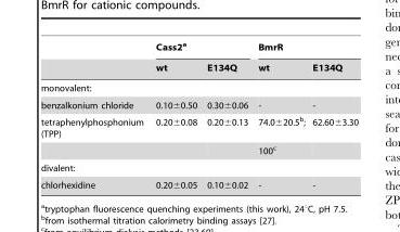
<table><thead><tr><td rowspan="2"></td><td colspan="2">Cass2<sup>a</sup></td><td colspan="2">BmrR</td></tr><tr><td>wt</td><td>E134Q</td><td>wt</td><td>E134Q</td></tr></thead><tbody><tr><td colspan="5">monovalent:</td></tr><tr><td>benzalkonium chloride</td><td>0.10±0.50</td><td>0.30±0.06</td><td>-</td><td>-</td></tr><tr><td rowspan="2">tetraphenylphosphonium (TPP)</td><td>0.20±0.08</td><td>0.20±0.13</td><td>74.0±20.5<sup>b</sup>;</td><td>62.60±3.30</td></tr><tr><td></td><td></td><td>100<sup>c</sup></td><td></td></tr><tr><td colspan="5">divalent:</td></tr><tr><td>chlorhexidine</td><td>0.20±0.05</td><td>0.10±0.02</td><td>-</td><td>-</td></tr></tbody></table>